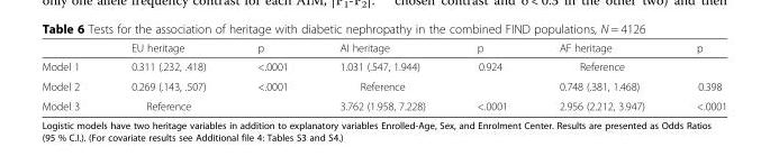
<table><thead><tr><td></td><td>EU heritage</td><td>p</td><td>AI heritage</td><td>p</td><td>AF heritage</td><td>p</td></tr></thead><tbody><tr><td>Model 1</td><td>0.311 (.232, .418)</td><td>&lt;.0001</td><td>1.031 (.547, 1.944)</td><td>0.924</td><td>Reference</td><td></td></tr><tr><td>Model 2</td><td>0.269 (.143, .507)</td><td>&lt;.0001</td><td>Reference</td><td></td><td>0.748 (.381, 1.468)</td><td>0.398</td></tr><tr><td>Model 3</td><td>Reference</td><td></td><td>3.762 (1.958, 7.228)</td><td>&lt;.0001</td><td>2.956 (2.212, 3.947)</td><td>&lt;.0001</td></tr></tbody></table>